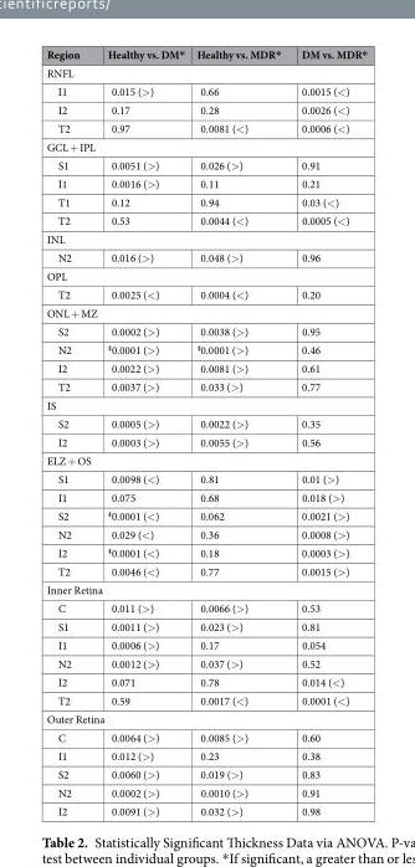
<table><thead><tr><td>Region</td><td>Healthy vs. DM*</td><td>Healthy vs. MDR*</td><td>DM vs. MDR*</td></tr></thead><tbody><tr><td colspan="4">RNFL</td></tr><tr><td>I1</td><td>0.015 (&gt;)</td><td>0.66</td><td>0.0015 (&lt;)</td></tr><tr><td>I2</td><td>0.17</td><td>0.28</td><td>0.0026 (&lt;)</td></tr><tr><td>T2</td><td>0.97</td><td>0.0081 (&lt;)</td><td>0.0006 (&lt;)</td></tr><tr><td colspan="4">GCL + IPL</td></tr><tr><td>S1</td><td>0.0051 (&gt;)</td><td>0.026 (&gt;)</td><td>0.91</td></tr><tr><td>I1</td><td>0.0016 (&gt;)</td><td>0.11</td><td>0.21</td></tr><tr><td>T1</td><td>0.12</td><td>0.94</td><td>0.03 (&lt;)</td></tr><tr><td>T2</td><td>0.53</td><td>0.0044 (&lt;)</td><td>0.0005 (&lt;)</td></tr><tr><td colspan="4">INL</td></tr><tr><td>N2</td><td>0.016 (&gt;)</td><td>0.048 (&gt;)</td><td>0.96</td></tr><tr><td colspan="4">OPL</td></tr><tr><td>T2</td><td>0.0025 (&lt;)</td><td>0.0004 (&lt;)</td><td>0.20</td></tr><tr><td colspan="4">ONL + MZ</td></tr><tr><td>S2</td><td>0.0002 (&gt;)</td><td>0.0038 (&gt;)</td><td>0.95</td></tr><tr><td>N2</td><td><sup>‡</sup>0.0001 (&gt;)</td><td><sup>‡</sup>0.0001 (&gt;)</td><td>0.46</td></tr><tr><td>I2</td><td>0.0022 (&gt;)</td><td>0.0081 (&gt;)</td><td>0.61</td></tr><tr><td>T2</td><td>0.0037 (&gt;)</td><td>0.033 (&gt;)</td><td>0.77</td></tr><tr><td colspan="4">IS</td></tr><tr><td>S2</td><td>0.0005 (&gt;)</td><td>0.0022 (&gt;)</td><td>0.35</td></tr><tr><td>I2</td><td>0.0003 (&gt;)</td><td>0.0055 (&gt;)</td><td>0.56</td></tr><tr><td colspan="4">ELZ + OS</td></tr><tr><td>S1</td><td>0.0098 (&lt;)</td><td>0.81</td><td>0.01 (&gt;)</td></tr><tr><td>I1</td><td>0.075</td><td>0.68</td><td>0.018 (&gt;)</td></tr><tr><td>S2</td><td><sup>‡</sup>0.0001 (&lt;)</td><td>0.062</td><td>0.0021 (&gt;)</td></tr><tr><td>N2</td><td>0.029 (&lt;)</td><td>0.36</td><td>0.0008 (&gt;)</td></tr><tr><td>I2</td><td><sup>‡</sup>0.0001 (&lt;)</td><td>0.18</td><td>0.0003 (&gt;)</td></tr><tr><td>T2</td><td>0.0046 (&lt;)</td><td>0.77</td><td>0.0015 (&gt;)</td></tr><tr><td colspan="4">Inner Retina</td></tr><tr><td>C</td><td>0.011 (&gt;)</td><td>0.0066 (&gt;)</td><td>0.53</td></tr><tr><td>S1</td><td>0.0011 (&gt;)</td><td>0.023 (&gt;)</td><td>0.81</td></tr><tr><td>I1</td><td>0.0006 (&gt;)</td><td>0.17</td><td>0.054</td></tr><tr><td>N2</td><td>0.0012 (&gt;)</td><td>0.037 (&gt;)</td><td>0.52</td></tr><tr><td>I2</td><td>0.071</td><td>0.78</td><td>0.014 (&lt;)</td></tr><tr><td>T2</td><td>0.59</td><td>0.0017 (&lt;)</td><td>0.0001 (&lt;)</td></tr><tr><td colspan="4">Outer Retina</td></tr><tr><td>C</td><td>0.0064 (&gt;)</td><td>0.0085 (&gt;)</td><td>0.60</td></tr><tr><td>I1</td><td>0.012 (&gt;)</td><td>0.23</td><td>0.38</td></tr><tr><td>S2</td><td>0.0060 (&gt;)</td><td>0.019 (&gt;)</td><td>0.83</td></tr><tr><td>N2</td><td>0.0002 (&gt;)</td><td>0.0010 (&gt;)</td><td>0.91</td></tr><tr><td>I2</td><td>0.0091 (&gt;)</td><td>0.032 (&gt;)</td><td>0.98</td></tr></tbody></table>